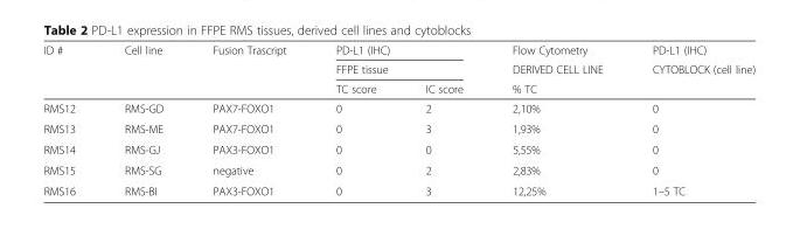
<table><thead><tr><td rowspan="3">ID #</td><td rowspan="3">Cell line</td><td rowspan="3">Fusion Trascript</td><td rowspan="2" colspan="2">PD-L1 (IHC) FFPE tissue</td><td rowspan="3">Flow Cytometry DERIVED CELL LINE % TC</td><td rowspan="3">PD-L1 (IHC) CYTOBLOCK (cell line)</td></tr><tr></tr><tr><td>TC score</td><td>IC score</td></tr></thead><tbody><tr><td>RMS12</td><td>RMS-GD</td><td>PAX7-FOXO1</td><td>0</td><td>2</td><td>2,10%</td><td>0</td></tr><tr><td>RMS13</td><td>RMS-ME</td><td>PAX7-FOXO1</td><td>0</td><td>3</td><td>1,93%</td><td>0</td></tr><tr><td>RMS14</td><td>RMS-GJ</td><td>PAX3-FOXO1</td><td>0</td><td>0</td><td>5,55%</td><td>0</td></tr><tr><td>RMS15</td><td>RMS-SG</td><td>negative</td><td>0</td><td>2</td><td>2,83%</td><td>0</td></tr><tr><td>RMS16</td><td>RMS-BI</td><td>PAX3-FOXO1</td><td>0</td><td>3</td><td>12,25%</td><td>1–5 TC</td></tr></tbody></table>